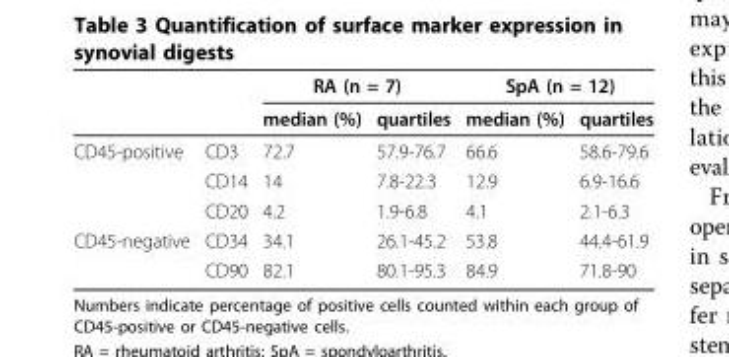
<table><thead><tr><td rowspan="2"></td><td rowspan="2"></td><td colspan="2">RA (n = 7)</td><td colspan="2">SpA (n = 12)</td></tr><tr><td>median (%)</td><td>quartiles</td><td>median (%)</td><td>quartiles</td></tr></thead><tbody><tr><td rowspan="3">CD45-positive</td><td>CD3</td><td>72.7</td><td>57.9-76.7</td><td>66.6</td><td>58.6-79.6</td></tr><tr><td>CD14</td><td>14</td><td>7.8-22.3</td><td>12.9</td><td>6.9-16.6</td></tr><tr><td>CD20</td><td>4.2</td><td>1.9-6.8</td><td>4.1</td><td>2.1-6.3</td></tr><tr><td rowspan="2">CD45-negative</td><td>CD34</td><td>34.1</td><td>26.1-45.2</td><td>53.8</td><td>44.4-61.9</td></tr><tr><td>CD90</td><td>82.1</td><td>80.1-95.3</td><td>84.9</td><td>71.8-90</td></tr></tbody></table>